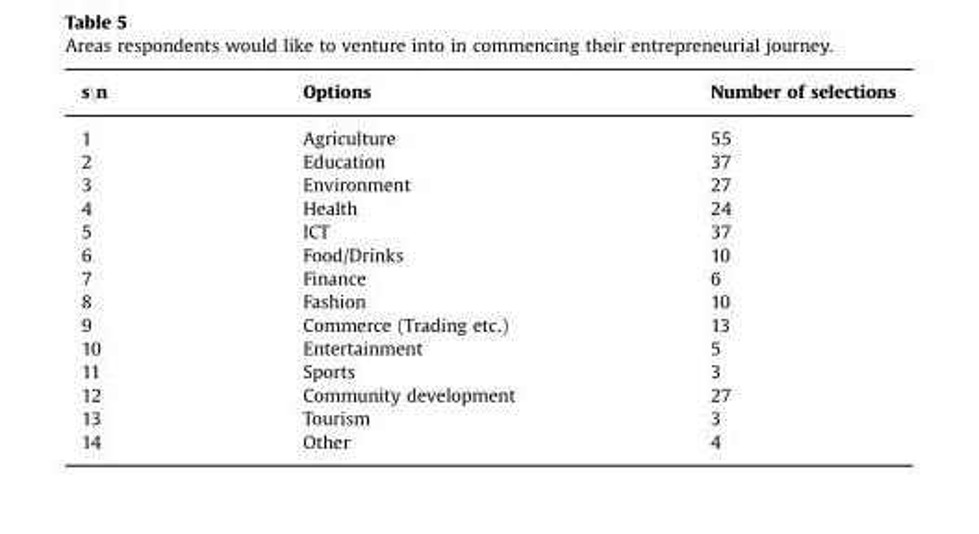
<table><thead><tr><td>s\n</td><td>Options</td><td>Number of selections</td></tr></thead><tbody><tr><td>1</td><td>Agriculture</td><td>55</td></tr><tr><td>2</td><td>Education</td><td>37</td></tr><tr><td>3</td><td>Environment</td><td>27</td></tr><tr><td>4</td><td>Health</td><td>24</td></tr><tr><td>5</td><td>ICT</td><td>37</td></tr><tr><td>6</td><td>Food/Drinks</td><td>10</td></tr><tr><td>7</td><td>Finance</td><td>6</td></tr><tr><td>8</td><td>Fashion</td><td>10</td></tr><tr><td>9</td><td>Commerce (Trading etc.)</td><td>13</td></tr><tr><td>10</td><td>Entertainment</td><td>5</td></tr><tr><td>11</td><td>Sports</td><td>3</td></tr><tr><td>12</td><td>Community development</td><td>27</td></tr><tr><td>13</td><td>Tourism</td><td>3</td></tr><tr><td>14</td><td>Other</td><td>4</td></tr></tbody></table>